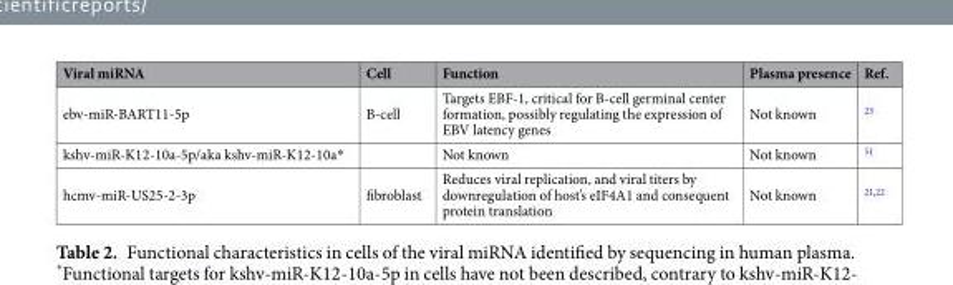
<table><thead><tr><td>Viral miRNA</td><td>Cell</td><td>Function</td><td>Plasma presence</td><td>Ref.</td></tr></thead><tbody><tr><td>ebv-miR-BART11-5p</td><td>B-cell</td><td>Targets EBF-1, critical for B-cell germinal center formation, possibly regulating the expression of EBV latency genes</td><td>Not known</td><td><sup>23</sup></td></tr><tr><td>kshv-miR-K12-10a-5p/aka kshv-miR-K12-10a*</td><td></td><td>Not known</td><td>Not known</td><td><sup>51</sup></td></tr><tr><td>hcmv-miR-US25-2-3p</td><td>fibroblast</td><td>Reduces viral replication, and viral titers by downregulation of host’s eIF4A1 and consequent protein translation</td><td>Not known</td><td><sup>21,22</sup></td></tr></tbody></table>